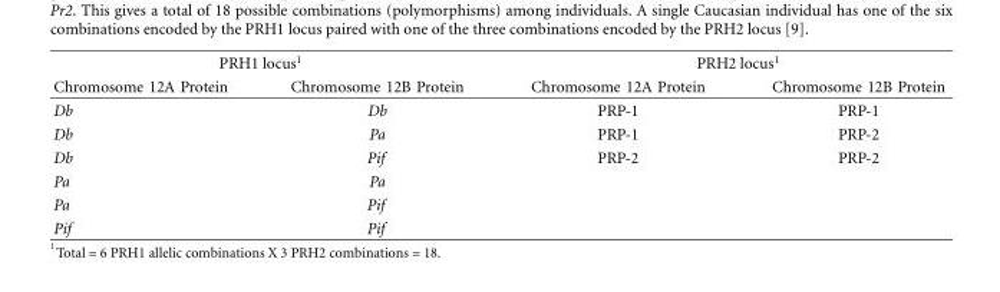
<table><thead><tr><td colspan="2">PRH1 locus<sup>1</sup></td><td colspan="2">PRH2 locus<sup>1</sup></td></tr><tr><td>Chromosome 12A Protein</td><td>Chromosome 12B Protein</td><td>Chromosome 12A Protein</td><td>Chromosome 12B Protein</td></tr></thead><tbody><tr><td>Db</td><td>Db</td><td>PRP-1</td><td>PRP-1</td></tr><tr><td>Db</td><td>Pa</td><td>PRP-1</td><td>PRP-2</td></tr><tr><td>Db</td><td>Pif</td><td>PRP-2</td><td>PRP-2</td></tr><tr><td>Pa</td><td>Pa</td><td></td><td></td></tr><tr><td>Pa</td><td>Pif</td><td></td><td></td></tr><tr><td>Pif</td><td>Pif</td><td></td><td></td></tr></tbody></table>